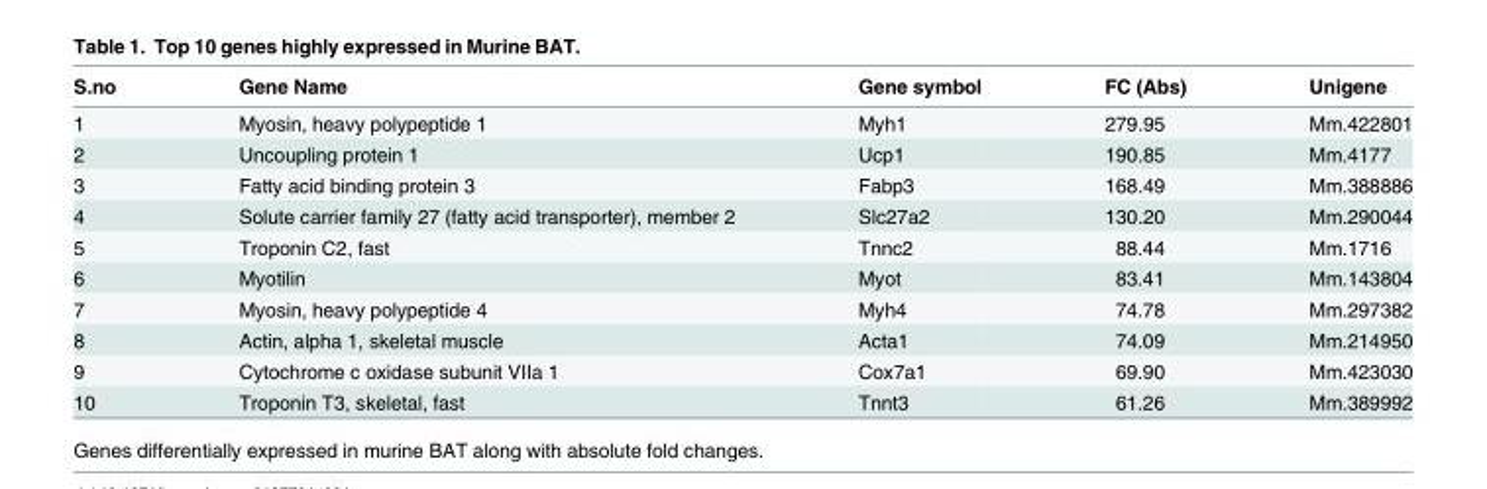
<table><thead><tr><td>S.no</td><td>Gene Name</td><td>Gene symbol</td><td>FC (Abs)</td><td>Unigene</td></tr></thead><tbody><tr><td>1</td><td>Myosin, heavy polypeptide 1</td><td>Myh1</td><td>279.95</td><td>Mm.422801</td></tr><tr><td>2</td><td>Uncoupling protein 1</td><td>Ucp1</td><td>190.85</td><td>Mm.4177</td></tr><tr><td>3</td><td>Fatty acid binding protein 3</td><td>Fabp3</td><td>168.49</td><td>Mm.388886</td></tr><tr><td>4</td><td>Solute carrier family 27 (fatty acid transporter), member 2</td><td>Slc27a2</td><td>130.20</td><td>Mm.290044</td></tr><tr><td>5</td><td>Troponin C2, fast</td><td>Tnnc2</td><td>88.44</td><td>Mm.1716</td></tr><tr><td>6</td><td>Myotilin</td><td>Myot</td><td>83.41</td><td>Mm.143804</td></tr><tr><td>7</td><td>Myosin, heavy polypeptide 4</td><td>Myh4</td><td>74.78</td><td>Mm.297382</td></tr><tr><td>8</td><td>Actin, alpha 1, skeletal muscle</td><td>Acta1</td><td>74.09</td><td>Mm.214950</td></tr><tr><td>9</td><td>Cytochrome c oxidase subunit VIIa 1</td><td>Cox7a1</td><td>69.90</td><td>Mm.423030</td></tr><tr><td>10</td><td>Troponin T3, skeletal, fast</td><td>Tnnt3</td><td>61.26</td><td>Mm.389992</td></tr></tbody></table>